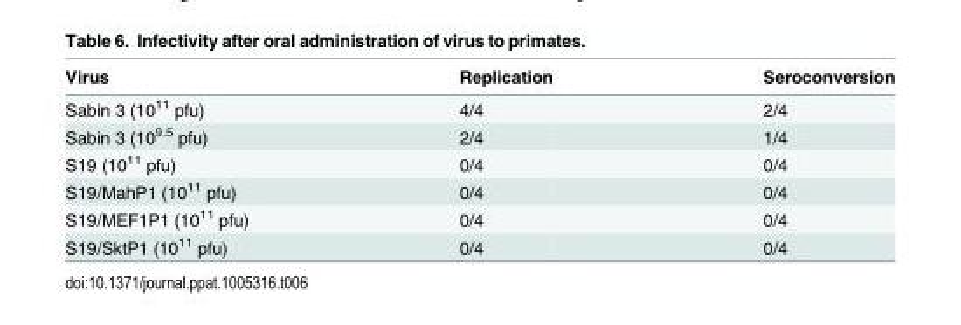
<table><thead><tr><td>Virus</td><td>Replication</td><td>Seroconversion</td></tr></thead><tbody><tr><td>Sabin 3 (10<sup>11</sup> pfu)</td><td>4/4</td><td>2/4</td></tr><tr><td>Sabin 3 (10<sup>9.5</sup> pfu)</td><td>2/4</td><td>1/4</td></tr><tr><td>S19 (10<sup>11</sup> pfu)</td><td>0/4</td><td>0/4</td></tr><tr><td>S19/MahP1 (10<sup>11</sup> pfu)</td><td>0/4</td><td>0/4</td></tr><tr><td>S19/MEF1P1 (10<sup>11</sup> pfu)</td><td>0/4</td><td>0/4</td></tr><tr><td>S19/SktP1 (10<sup>11</sup> pfu)</td><td>0/4</td><td>0/4</td></tr></tbody></table>